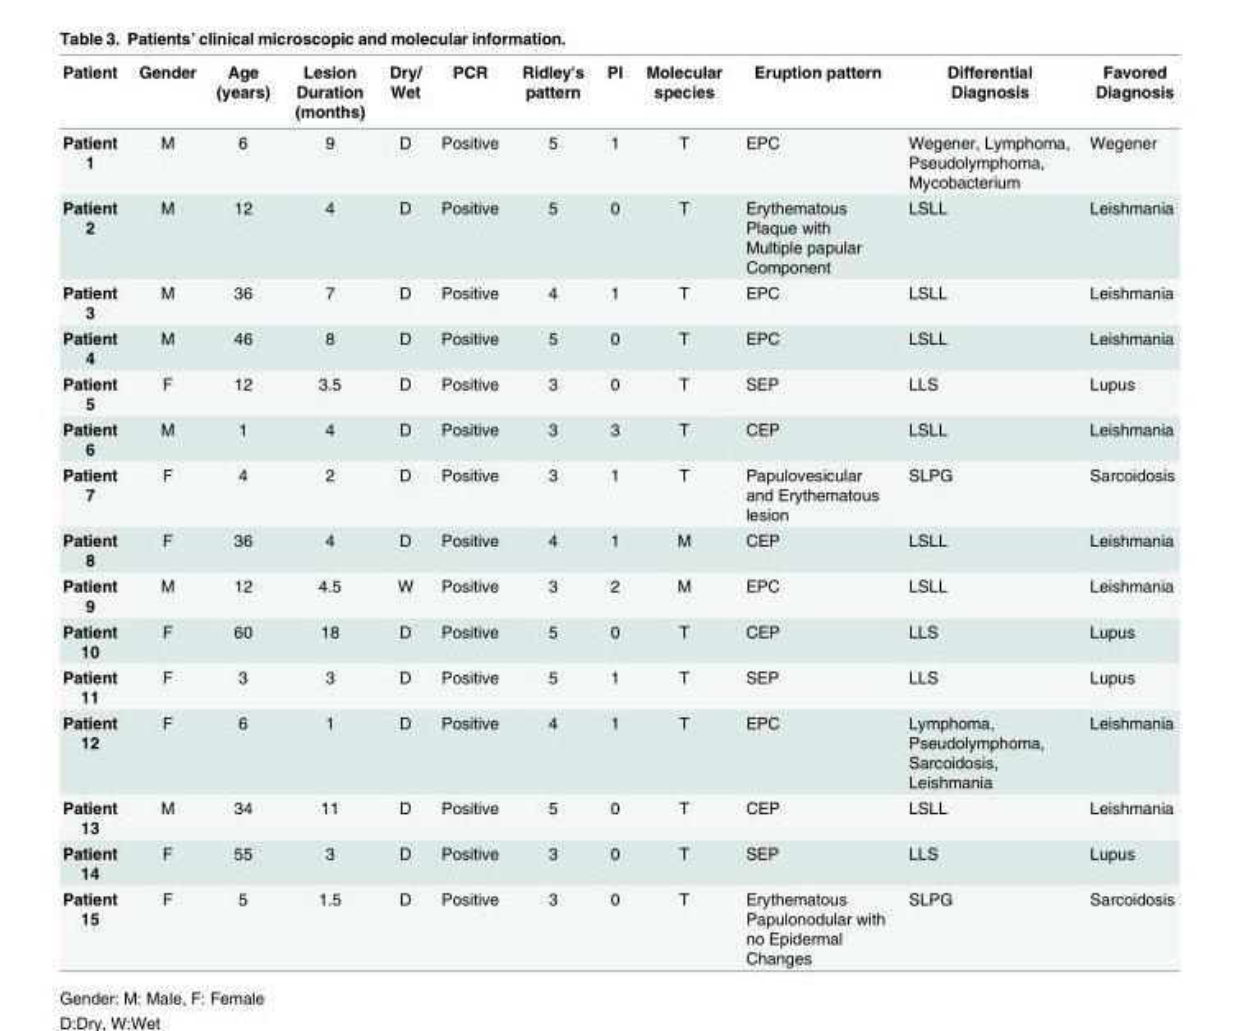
<table><thead><tr><td>Patient</td><td>Gender</td><td>Age (years)</td><td>Lesion Duration (months)</td><td>Dry/ Wet</td><td>PCR</td><td>Ridley&#x27;s pattern</td><td>PI</td><td>Molecular species</td><td>Eruption pattern</td><td>Differential Diagnosis</td><td>Favored Diagnosis</td></tr></thead><tbody><tr><td>Patient 1</td><td>M</td><td>6</td><td>9</td><td>D</td><td>Positive</td><td>5</td><td>1</td><td>T</td><td>EPC</td><td>Wegener, Lymphoma, Pseudolymphoma, Mycobacterium</td><td>Wegener</td></tr><tr><td>Patient 2</td><td>M</td><td>12</td><td>4</td><td>D</td><td>Positive</td><td>5</td><td>0</td><td>T</td><td>Erythematous Plaque with Multiple papular Component</td><td>LSLL</td><td>Leishmania</td></tr><tr><td>Patient 3</td><td>M</td><td>36</td><td>7</td><td>D</td><td>Positive</td><td>4</td><td>1</td><td>T</td><td>EPC</td><td>LSLL</td><td>Leishmania</td></tr><tr><td>Patient 4</td><td>M</td><td>46</td><td>8</td><td>D</td><td>Positive</td><td>5</td><td>0</td><td>T</td><td>EPC</td><td>LSLL</td><td>Leishmania</td></tr><tr><td>Patient 5</td><td>F</td><td>12</td><td>3.5</td><td>D</td><td>Positive</td><td>3</td><td>0</td><td>T</td><td>SEP</td><td>LLS</td><td>Lupus</td></tr><tr><td>Patient 6</td><td>M</td><td>1</td><td>4</td><td>D</td><td>Positive</td><td>3</td><td>3</td><td>T</td><td>CEP</td><td>LSLL</td><td>Leishmania</td></tr><tr><td>Patient 7</td><td>F</td><td>4</td><td>2</td><td>D</td><td>Positive</td><td>3</td><td>1</td><td>T</td><td>Papulovesicular and Erythematous lesion</td><td>SLPG</td><td>Sarcoidosis</td></tr><tr><td>Patient 8</td><td>F</td><td>36</td><td>4</td><td>D</td><td>Positive</td><td>4</td><td>1</td><td>M</td><td>CEP</td><td>LSLL</td><td>Leishmania</td></tr><tr><td>Patient 9</td><td>M</td><td>12</td><td>4.5</td><td>W</td><td>Positive</td><td>3</td><td>2</td><td>M</td><td>EPC</td><td>LSLL</td><td>Leishmania</td></tr><tr><td>Patient 10</td><td>F</td><td>60</td><td>18</td><td>D</td><td>Positive</td><td>5</td><td>0</td><td>T</td><td>CEP</td><td>LLS</td><td>Lupus</td></tr><tr><td>Patient 11</td><td>F</td><td>3</td><td>3</td><td>D</td><td>Positive</td><td>5</td><td>1</td><td>T</td><td>SEP</td><td>LLS</td><td>Lupus</td></tr><tr><td>Patient 12</td><td>F</td><td>6</td><td>1</td><td>D</td><td>Positive</td><td>4</td><td>1</td><td>T</td><td>EPC</td><td>Lymphoma, Pseudolymphoma, Sarcoidosis, Leishmania</td><td>Leishmania</td></tr><tr><td>Patient 13</td><td>M</td><td>34</td><td>11</td><td>D</td><td>Positive</td><td>5</td><td>0</td><td>T</td><td>CEP</td><td>LSLL</td><td>Leishmania</td></tr><tr><td>Patient 14</td><td>F</td><td>55</td><td>3</td><td>D</td><td>Positive</td><td>3</td><td>0</td><td>T</td><td>SEP</td><td>LLS</td><td>Lupus</td></tr><tr><td>Patient 15</td><td>F</td><td>5</td><td>1.5</td><td>D</td><td>Positive</td><td>3</td><td>0</td><td>T</td><td>Erythematous Papulonodular with no Epidermal Changes</td><td>SLPG</td><td>Sarcoidosis</td></tr></tbody></table>